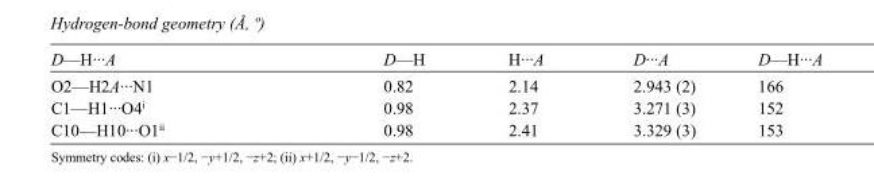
<table><tbody><tr><td>D—H···A</td><td>D—H</td><td>H···A</td><td>D···A</td><td>D—H···A</td></tr><tr><td>O2—H2A···N1</td><td>0.82</td><td>2.14</td><td>2.943 (2)</td><td>166</td></tr><tr><td>C1—H1···O4<sup>i</sup></td><td>0.98</td><td>2.37</td><td>3.271 (3)</td><td>152</td></tr><tr><td>C10—H10···O1<sup>ii</sup></td><td>0.98</td><td>2.41</td><td>3.329 (3)</td><td>153</td></tr></tbody></table>